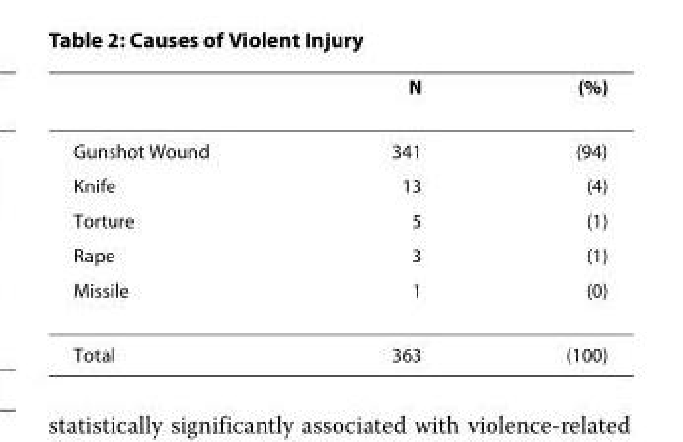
<table><thead><tr><td></td><td>N</td><td>(%)</td></tr></thead><tbody><tr><td>Gunshot Wound</td><td>341</td><td>(94)</td></tr><tr><td>Knife</td><td>13</td><td>(4)</td></tr><tr><td>Torture</td><td>5</td><td>(1)</td></tr><tr><td>Rape</td><td>3</td><td>(1)</td></tr><tr><td>Missile</td><td>1</td><td>(0)</td></tr><tr><td>Total</td><td>363</td><td>(100)</td></tr></tbody></table>